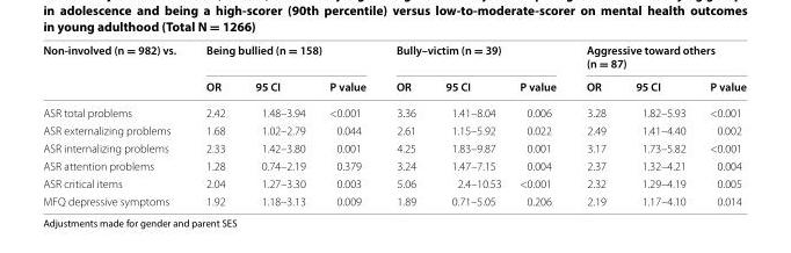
<table><thead><tr><td rowspan="2">Non-involved (n = 982) vs.</td><td colspan="3">Being bullied (n = 158)</td><td colspan="3">Bully–victim (n = 39)</td><td colspan="3">Aggressive toward others (n = 87)</td></tr><tr><td>OR</td><td>95 CI</td><td>P value</td><td>OR</td><td>95 CI</td><td>P value</td><td>OR</td><td>95 CI</td><td>P value</td></tr></thead><tbody><tr><td>ASR total problems</td><td>2.42</td><td>1.48–3.94</td><td>&lt;0.001</td><td>3.36</td><td>1.41–8.04</td><td>0.006</td><td>3.28</td><td>1.82–5.93</td><td>&lt;0.001</td></tr><tr><td>ASR externalizing problems</td><td>1.68</td><td>1.02–2.79</td><td>0.044</td><td>2.61</td><td>1.15–5.92</td><td>0.022</td><td>2.49</td><td>1.41–4.40</td><td>0.002</td></tr><tr><td>ASR internalizing problems</td><td>2.33</td><td>1.42–3.80</td><td>0.001</td><td>4.25</td><td>1.83–9.87</td><td>0.001</td><td>3.17</td><td>1.73–5.82</td><td>&lt;0.001</td></tr><tr><td>ASR attention problems</td><td>1.28</td><td>0.74–2.19</td><td>0.379</td><td>3.24</td><td>1.47–7.15</td><td>0.004</td><td>2.37</td><td>1.32–4.21</td><td>0.004</td></tr><tr><td>ASR critical items</td><td>2.04</td><td>1.27–3.30</td><td>0.003</td><td>5.06</td><td>2.4–10.53</td><td>&lt;0.001</td><td>2.32</td><td>1.29–4.19</td><td>0.005</td></tr><tr><td>MFQ depressive symptoms</td><td>1.92</td><td>1.18–3.13</td><td>0.009</td><td>1.89</td><td>0.71–5.05</td><td>0.206</td><td>2.19</td><td>1.17–4.10</td><td>0.014</td></tr></tbody></table>